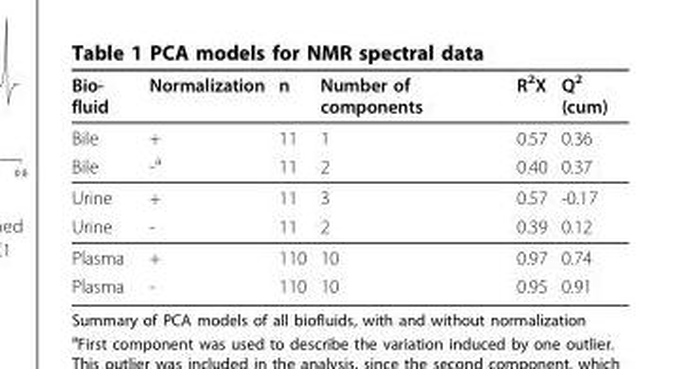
<table><thead><tr><td>Bio- fluid</td><td>Normalization</td><td>n</td><td>Number of components</td><td>R<sup>2</sup>X</td><td>Q<sup>2</sup> (cum)</td></tr></thead><tbody><tr><td>Bile</td><td>+</td><td>11</td><td>1</td><td>0.57</td><td>0.36</td></tr><tr><td>Bile</td><td>-<sup>a</sup></td><td>11</td><td>2</td><td>0.40</td><td>0.37</td></tr><tr><td>Urine</td><td>+</td><td>11</td><td>3</td><td>0.57</td><td>-0.17</td></tr><tr><td>Urine</td><td>-</td><td>11</td><td>2</td><td>0.39</td><td>0.12</td></tr><tr><td>Plasma</td><td>+</td><td>110</td><td>10</td><td>0.97</td><td>0.74</td></tr><tr><td>Plasma</td><td>-</td><td>110</td><td>10</td><td>0.95</td><td>0.91</td></tr></tbody></table>